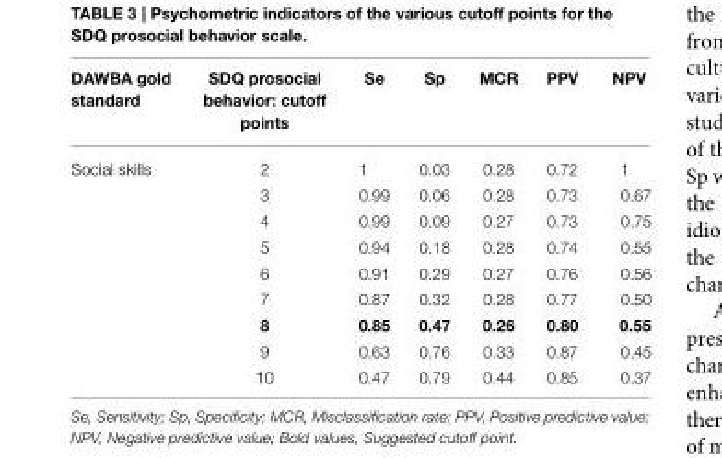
<table><thead><tr><td>DAWBA gold standard</td><td>SDQ prosocial behavior: cutoff points</td><td>Se</td><td>Sp</td><td>MCR</td><td>PPV</td><td>NPV</td></tr></thead><tbody><tr><td rowspan="9">Social skills</td><td>2</td><td>1</td><td>0.03</td><td>0.28</td><td>0.72</td><td>1</td></tr><tr><td>3</td><td>0.99</td><td>0.06</td><td>0.28</td><td>0.73</td><td>0.67</td></tr><tr><td>4</td><td>0.99</td><td>0.09</td><td>0.27</td><td>0.73</td><td>0.75</td></tr><tr><td>5</td><td>0.94</td><td>0.18</td><td>0.28</td><td>0.74</td><td>0.55</td></tr><tr><td>6</td><td>0.91</td><td>0.29</td><td>0.27</td><td>0.76</td><td>0.56</td></tr><tr><td>7</td><td>0.87</td><td>0.32</td><td>0.28</td><td>0.77</td><td>0.50</td></tr><tr><td>8</td><td>0.85</td><td>0.47</td><td>0.26</td><td>0.80</td><td>0.55</td></tr><tr><td>9</td><td>0.63</td><td>0.76</td><td>0.33</td><td>0.87</td><td>0.45</td></tr><tr><td>10</td><td>0.47</td><td>0.79</td><td>0.44</td><td>0.85</td><td>0.37</td></tr></tbody></table>